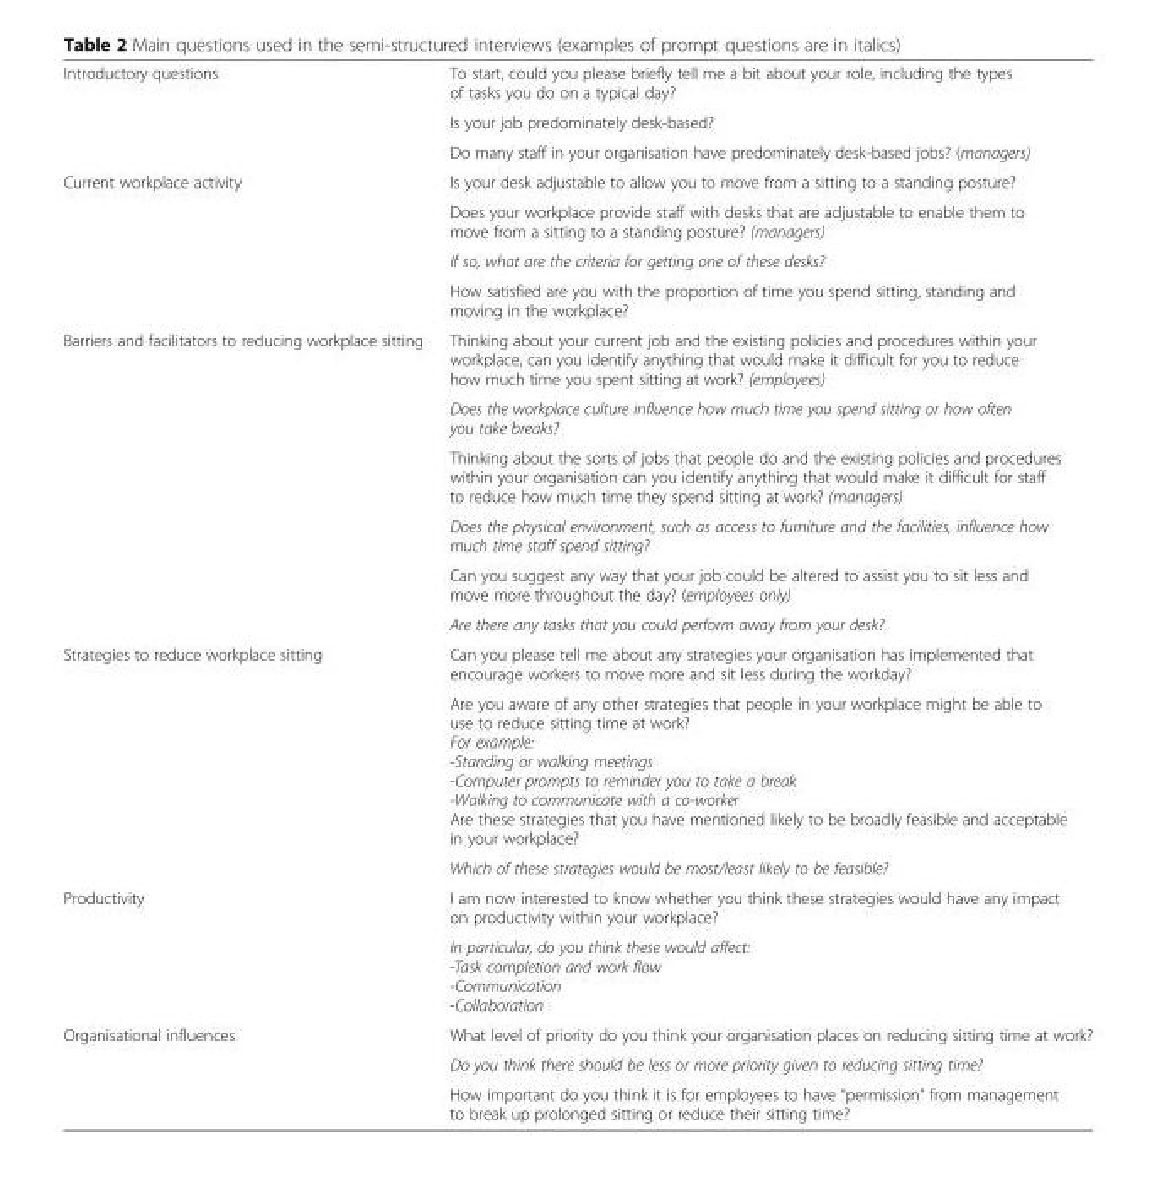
<table><tbody><tr><td rowspan="3">Introductory questions</td><td>To start, could you please briefly tell me a bit about your role, including the types of tasks you do on a typical day?</td></tr><tr><td>Is your job predominately desk-based?</td></tr><tr><td>Do many staff in your organisation have predominately desk-based jobs? (managers)</td></tr><tr><td rowspan="4">Current workplace activity</td><td>Is your desk adjustable to allow you to move from a sitting to a standing posture?</td></tr><tr><td>Does your workplace provide staff with desks that are adjustable to enable them to move from a sitting to a standing posture? (managers)</td></tr><tr><td>If so, what are the criteria for getting one of these desks?</td></tr><tr><td>How satisfied are you with the proportion of time you spend sitting, standing and moving in the workplace?</td></tr><tr><td rowspan="6">Barriers and facilitators to reducing workplace sitting</td><td>Thinking about your current job and the existing policies and procedures within your workplace, can you identify anything that would make it difficult for you to reduce how much time you spent sitting at work? (employees)</td></tr><tr><td>Does the workplace culture influence how much time you spend sitting or how often you take breaks?</td></tr><tr><td>Thinking about the sorts of jobs that people do and the existing policies and procedures within your organisation can you identify anything that would make it difficult for staff to reduce how much time they spend sitting at work? (managers)</td></tr><tr><td>Does the physical environment, such as access to furniture and the facilities, influence how much time staff spend sitting?</td></tr><tr><td>Can you suggest any way that your job could be altered to assist you to sit less and move more throughout the day? (employees only)</td></tr><tr><td>Are there any tasks that you could perform away from your desk?</td></tr><tr><td rowspan="3">Strategies to reduce workplace sitting</td><td>Can you please tell me about any strategies your organisation has implemented that encourage workers to move more and sit less during the workday?</td></tr><tr><td>Are you aware of any other strategies that people in your workplace might be able to use to reduce sitting time at work? For example: -Standing or walking meetings -Computer prompts to reminder you to take a break -Walking to communicate with a co-worker Are these strategies that you have mentioned likely to be broadly feasible and acceptable in your workplace?</td></tr><tr><td>Which of these strategies would be most/least likely to be feasible?</td></tr><tr><td rowspan="2">Productivity</td><td>I am now interested to know whether you think these strategies would have any impact on productivity within your workplace?</td></tr><tr><td>In particular, do you think these would affect: -Task completion and work flow -Communication -Collaboration</td></tr><tr><td rowspan="3">Organisational influences</td><td>What level of priority do you think your organisation places on reducing sitting time at work?</td></tr><tr><td>Do you think there should be less or more priority given to reducing sitting time?</td></tr><tr><td>How important do you think it is for employees to have “permission” from management to break up prolonged sitting or reduce their sitting time?</td></tr></tbody></table>